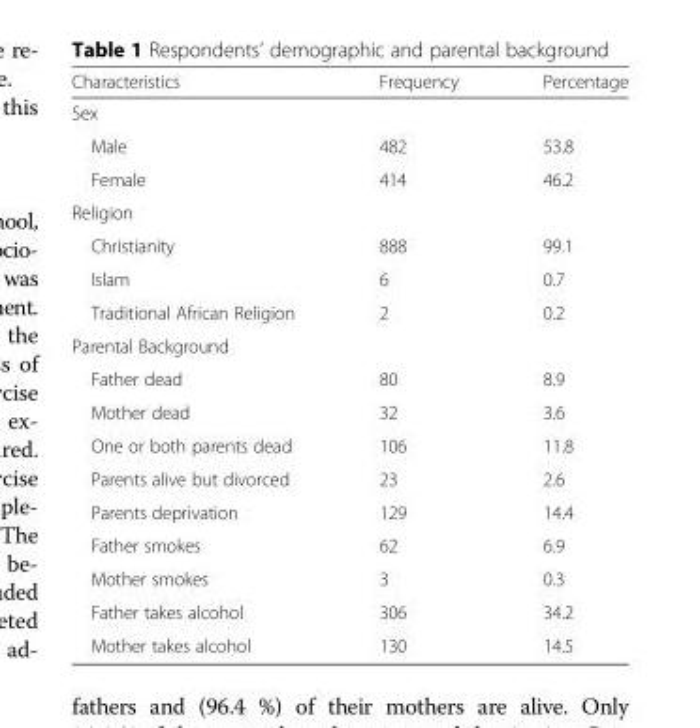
<table><thead><tr><td>Characteristics</td><td>Frequency</td><td>Percentage</td></tr></thead><tbody><tr><td colspan="3">Sex</td></tr><tr><td>Male</td><td>482</td><td>53.8</td></tr><tr><td>Female</td><td>414</td><td>46.2</td></tr><tr><td colspan="3">Religion</td></tr><tr><td>Christianity</td><td>888</td><td>99.1</td></tr><tr><td>Islam</td><td>6</td><td>0.7</td></tr><tr><td>Traditional African Religion</td><td>2</td><td>0.2</td></tr><tr><td colspan="3">Parental Background</td></tr><tr><td>Father dead</td><td>80</td><td>8.9</td></tr><tr><td>Mother dead</td><td>32</td><td>3.6</td></tr><tr><td>One or both parents dead</td><td>106</td><td>11.8</td></tr><tr><td>Parents alive but divorced</td><td>23</td><td>2.6</td></tr><tr><td>Parents deprivation</td><td>129</td><td>14.4</td></tr><tr><td>Father smokes</td><td>62</td><td>6.9</td></tr><tr><td>Mother smokes</td><td>3</td><td>0.3</td></tr><tr><td>Father takes alcohol</td><td>306</td><td>34.2</td></tr><tr><td>Mother takes alcohol</td><td>130</td><td>14.5</td></tr></tbody></table>